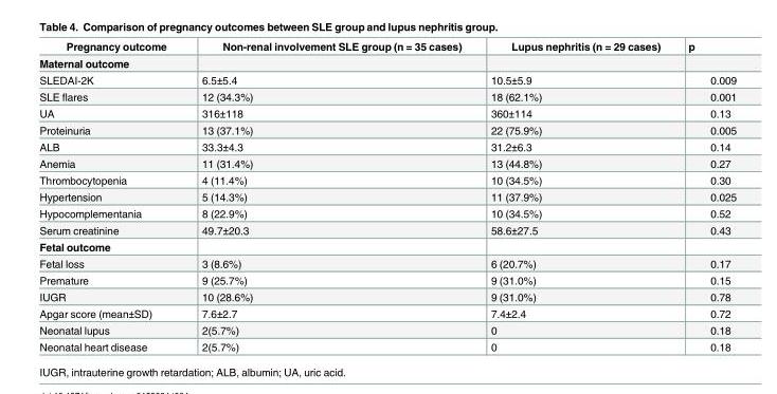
<table><thead><tr><td>Pregnancy outcome</td><td>Non-renal involvement SLE group (n = 35 cases)</td><td>Lupus nephritis (n = 29 cases)</td><td>p</td></tr></thead><tbody><tr><td colspan="4">Maternal outcome</td></tr><tr><td>SLEDAI-2K</td><td>6.5±5.4</td><td>10.5±5.9</td><td>0.009</td></tr><tr><td>SLE flares</td><td>12 (34.3%)</td><td>18 (62.1%)</td><td>0.001</td></tr><tr><td>UA</td><td>316±118</td><td>360±114</td><td>0.13</td></tr><tr><td>Proteinuria</td><td>13 (37.1%)</td><td>22 (75.9%)</td><td>0.005</td></tr><tr><td>ALB</td><td>33.3±4.3</td><td>31.2±6.3</td><td>0.14</td></tr><tr><td>Anemia</td><td>11 (31.4%)</td><td>13 (44.8%)</td><td>0.27</td></tr><tr><td>Thrombocytopenia</td><td>4 (11.4%)</td><td>10 (34.5%)</td><td>0.30</td></tr><tr><td>Hypertension</td><td>5 (14.3%)</td><td>11 (37.9%)</td><td>0.025</td></tr><tr><td>Hypocomplementania</td><td>8 (22.9%)</td><td>10 (34.5%)</td><td>0.52</td></tr><tr><td>Serum creatinine</td><td>49.7±20.3</td><td>58.6±27.5</td><td>0.43</td></tr><tr><td colspan="4">Fetal outcome</td></tr><tr><td>Fetal loss</td><td>3 (8.6%)</td><td>6 (20.7%)</td><td>0.17</td></tr><tr><td>Premature</td><td>9 (25.7%)</td><td>9 (31.0%)</td><td>0.15</td></tr><tr><td>IUGR</td><td>10 (28.6%)</td><td>9 (31.0%)</td><td>0.78</td></tr><tr><td>Apgar score (mean±SD)</td><td>7.6±2.7</td><td>7.4±2.4</td><td>0.72</td></tr><tr><td>Neonatal lupus</td><td>2(5.7%)</td><td>0</td><td>0.18</td></tr><tr><td>Neonatal heart disease</td><td>2(5.7%)</td><td>0</td><td>0.18</td></tr></tbody></table>